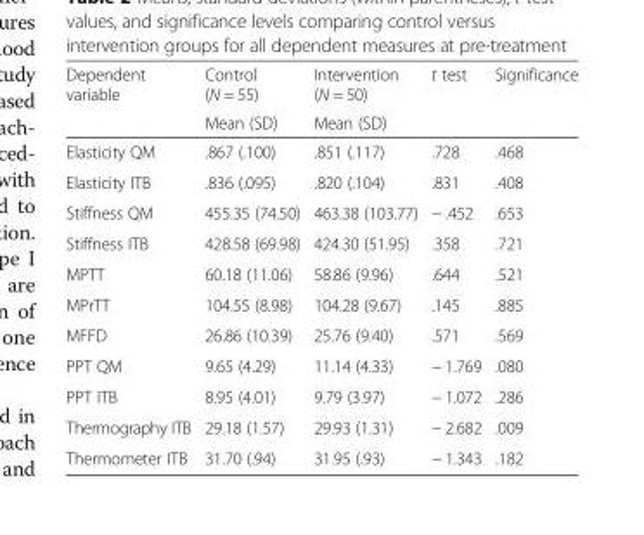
<table><thead><tr><td rowspan="2">Dependent variable</td><td rowspan="2">Control (N = 55) Mean (SD)</td><td rowspan="2">Intervention (N = 50) Mean (SD)</td><td rowspan="2">t test</td><td rowspan="2">Significance</td></tr><tr></tr></thead><tbody><tr><td>Elasticity QM</td><td>.867 (.100)</td><td>.851 (.117)</td><td>.728</td><td>.468</td></tr><tr><td>Elasticity ITB</td><td>.836 (.095)</td><td>.820 (.104)</td><td>.831</td><td>.408</td></tr><tr><td>Stiffness QM</td><td>455.35 (74.50)</td><td>463.38 (103.77)</td><td>− .452</td><td>.653</td></tr><tr><td>Stiffness ITB</td><td>428.58 (69.98)</td><td>424.30 (51.95)</td><td>.358</td><td>.721</td></tr><tr><td>MPTT</td><td>60.18 (11.06)</td><td>58.86 (9.96)</td><td>.644</td><td>.521</td></tr><tr><td>MPrTT</td><td>104.55 (8.98)</td><td>104.28 (9.67)</td><td>.145</td><td>.885</td></tr><tr><td>MFFD</td><td>26.86 (10.39)</td><td>25.76 (9.40)</td><td>.571</td><td>.569</td></tr><tr><td>PPT QM</td><td>9.65 (4.29)</td><td>11.14 (4.33)</td><td>− 1.769</td><td>.080</td></tr><tr><td>PPT ITB</td><td>8.95 (4.01)</td><td>9.79 (3.97)</td><td>− 1.072</td><td>.286</td></tr><tr><td>Thermography ITB</td><td>29.18 (1.57)</td><td>29.93 (1.31)</td><td>− 2.682</td><td>.009</td></tr><tr><td>Thermometer ITB</td><td>31.70 (.94)</td><td>31.95 (.93)</td><td>− 1.343</td><td>.182</td></tr></tbody></table>